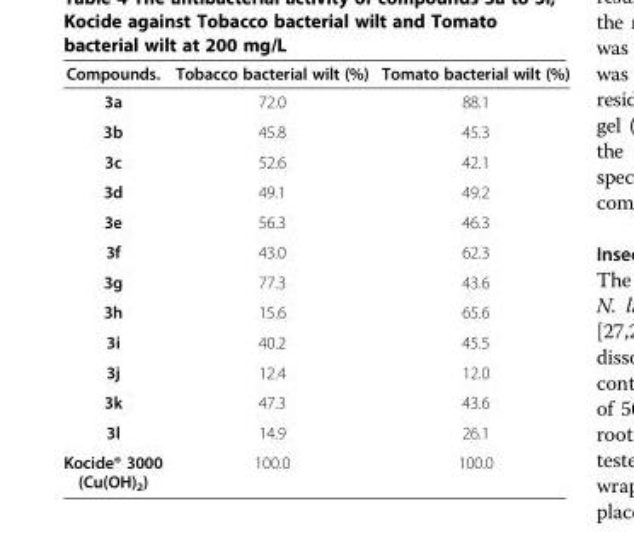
<table><thead><tr><td>Compounds.</td><td>Tobacco bacterial wilt (%)</td><td>Tomato bacterial wilt (%)</td></tr></thead><tbody><tr><td>3a</td><td>72.0</td><td>88.1</td></tr><tr><td>3b</td><td>45.8</td><td>45.3</td></tr><tr><td>3c</td><td>52.6</td><td>42.1</td></tr><tr><td>3d</td><td>49.1</td><td>49.2</td></tr><tr><td>3e</td><td>56.3</td><td>46.3</td></tr><tr><td>3f</td><td>43.0</td><td>62.3</td></tr><tr><td>3g</td><td>77.3</td><td>43.6</td></tr><tr><td>3h</td><td>15.6</td><td>65.6</td></tr><tr><td>3i</td><td>40.2</td><td>45.5</td></tr><tr><td>3j</td><td>12.4</td><td>12.0</td></tr><tr><td>3k</td><td>47.3</td><td>43.6</td></tr><tr><td>3l</td><td>14.9</td><td>26.1</td></tr><tr><td>Kocide® 3000 (Cu(OH)<sub>2</sub>)</td><td>100.0</td><td>100.0</td></tr></tbody></table>